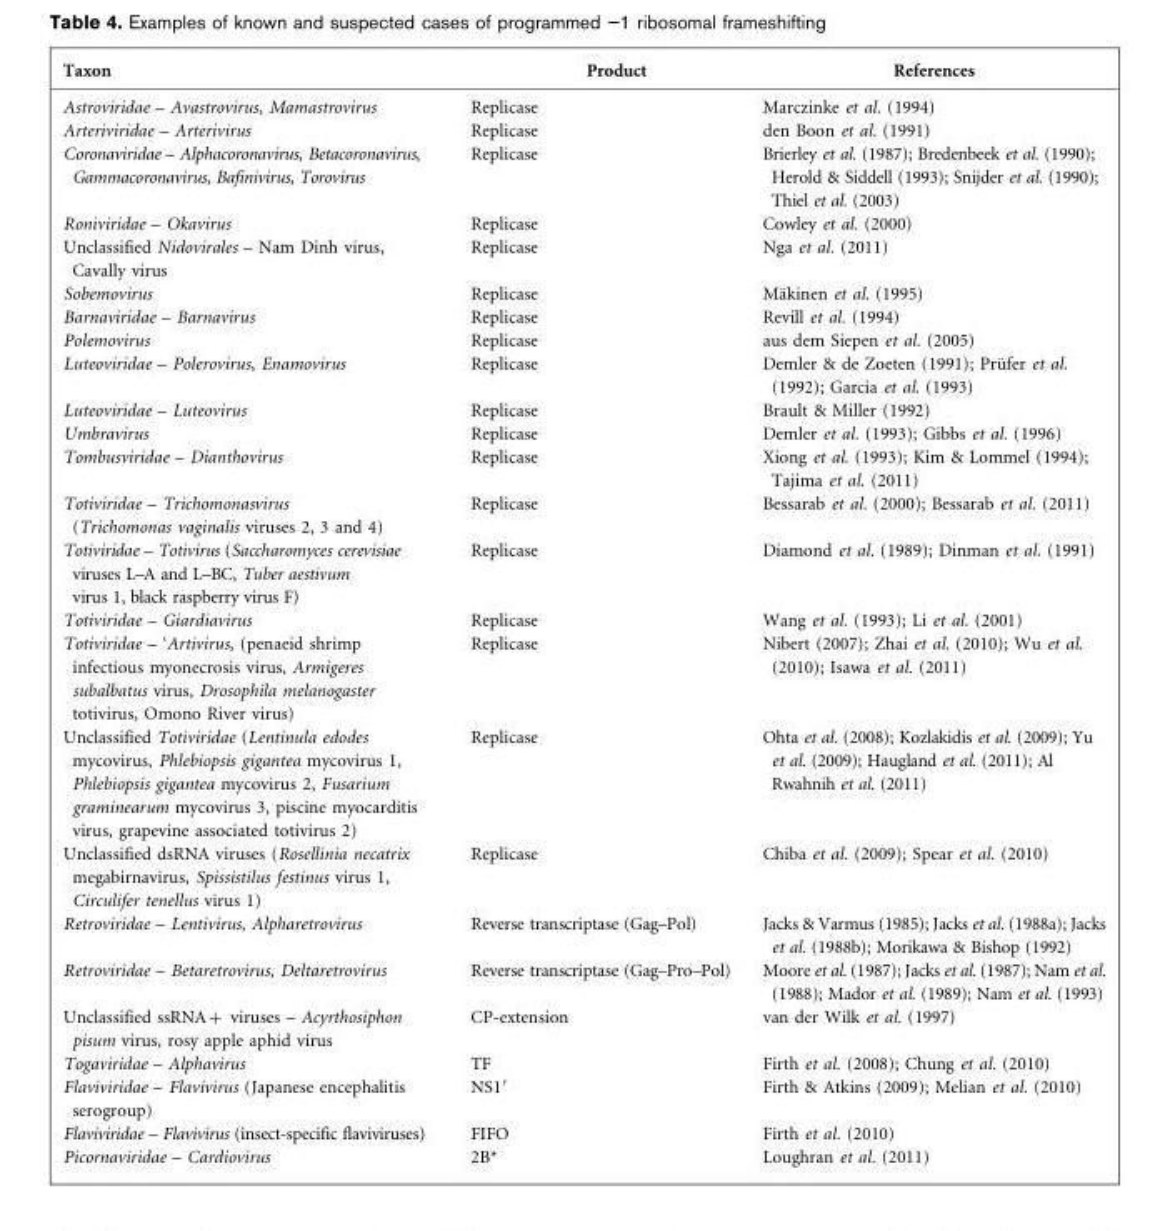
<table><thead><tr><td>Taxon</td><td>Product</td><td>References</td></tr></thead><tbody><tr><td>Astroviridae – Avastrovirus, Mamastrovirus</td><td>Replicase</td><td>Marczinke et al. (1994)</td></tr><tr><td>Arteriviridae – Arterivirus</td><td>Replicase</td><td>den Boon et al. (1991)</td></tr><tr><td>Coronaviridae – Alphacoronavirus, Betacoronavirus, Gammacoronavirus, Bafinivirus, Torovirus</td><td>Replicase</td><td>Brierley et al. (1987); Bredenbeek et al. (1990); Herold &amp; Siddell (1993); Snijder et al. (1990); Thiel et al. (2003)</td></tr><tr><td>Roniviridae – Okavirus</td><td>Replicase</td><td>Cowley et al. (2000)</td></tr><tr><td>Unclassified Nidovirales – Nam Dinh virus, Cavally virus</td><td>Replicase</td><td>Nga et al. (2011)</td></tr><tr><td>Sobemovirus</td><td>Replicase</td><td>Ma¨kinen et al. (1995)</td></tr><tr><td>Barnaviridae – Barnavirus</td><td>Replicase</td><td>Revill et al. (1994)</td></tr><tr><td>Polemovirus</td><td>Replicase</td><td>aus dem Siepen et al. (2005)</td></tr><tr><td>Luteoviridae – Polerovirus, Enamovirus</td><td>Replicase</td><td>Demler &amp; de Zoeten (1991); Pru¨fer et al. (1992); Garcia et al. (1993)</td></tr><tr><td>Luteoviridae – Luteovirus</td><td>Replicase</td><td>Brault &amp; Miller (1992)</td></tr><tr><td>Umbravirus</td><td>Replicase</td><td>Demler et al. (1993); Gibbs et al. (1996)</td></tr><tr><td>Tombusviridae – Dianthovirus</td><td>Replicase</td><td>Xiong et al. (1993); Kim &amp; Lommel (1994); Tajima et al. (2011)</td></tr><tr><td>Totiviridae – Trichomonasvirus (Trichomonas vaginalis viruses 2, 3 and 4)</td><td>Replicase</td><td>Bessarab et al. (2000); Bessarab et al. (2011)</td></tr><tr><td>Totiviridae – Totivirus (Saccharomyces cerevisiae viruses L–A and L–BC, Tuber aestivum virus 1, black raspberry virus F)</td><td>Replicase</td><td>Diamond et al. (1989); Dinman et al. (1991)</td></tr><tr><td>Totiviridae – Giardiavirus</td><td>Replicase</td><td>Wang et al. (1993); Li et al. (2001)</td></tr><tr><td>Totiviridae – ‘Artivirus, (penaeid shrimp infectious myonecrosis virus, Armigeres subalbatus virus, Drosophila melanogaster totivirus, Omono River virus)</td><td>Replicase</td><td>Nibert (2007); Zhai et al. (2010); Wu et al. (2010); Isawa et al. (2011)</td></tr><tr><td>Unclassified Totiviridae (Lentinula edodes mycovirus, Phlebiopsis gigantea mycovirus 1, Phlebiopsis gigantea mycovirus 2, Fusarium graminearum mycovirus 3, piscine myocarditis virus, grapevine associated totivirus 2)</td><td>Replicase</td><td>Ohta et al. (2008); Kozlakidis et al. (2009); Yu et al. (2009); Haugland et al. (2011); Al Rwahnih et al. (2011)</td></tr><tr><td>Unclassified dsRNA viruses (Rosellinia necatrix megabirnavirus, Spissistilus festinus virus 1, Circulifer tenellus virus 1)</td><td>Replicase</td><td>Chiba et al. (2009); Spear et al. (2010)</td></tr><tr><td>Retroviridae – Lentivirus, Alpharetrovirus</td><td>Reverse transcriptase (Gag–Pol)</td><td>Jacks &amp; Varmus (1985); Jacks et al. (1988a); Jacks et al. (1988b); Morikawa &amp; Bishop (1992)</td></tr><tr><td>Retroviridae – Betaretrovirus, Deltaretrovirus</td><td>Reverse transcriptase (Gag–Pro–Pol)</td><td>Moore et al. (1987); Jacks et al. (1987); Nam et al. (1988); Mador et al. (1989); Nam et al. (1993)</td></tr><tr><td>Unclassified ssRNA+ viruses – Acyrthosiphon pisum virus, rosy apple aphid virus</td><td>CP-extension</td><td>van der Wilk et al. (1997)</td></tr><tr><td>Togaviridae – Alphavirus</td><td>TF</td><td>Firth et al. (2008); Chung et al. (2010)</td></tr><tr><td>Flaviviridae – Flavivirus (Japanese encephalitis serogroup)</td><td>NS1′</td><td>Firth &amp; Atkins (2009); Melian et al. (2010)</td></tr><tr><td>Flaviviridae – Flavivirus (insect-specific flaviviruses)</td><td>FIFO</td><td>Firth et al. (2010)</td></tr><tr><td>Picornaviridae – Cardiovirus</td><td>2B*</td><td>Loughran et al. (2011)</td></tr></tbody></table>